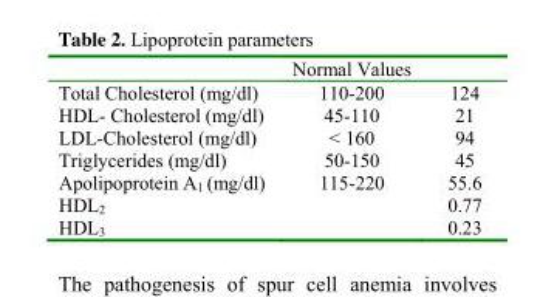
<table><thead><tr><td></td><td>Normal Values</td><td></td></tr></thead><tbody><tr><td>Total Cholesterol (mg/dl)</td><td>110-200</td><td>124</td></tr><tr><td>HDL- Cholesterol (mg/dl)</td><td>45-110</td><td>21</td></tr><tr><td>LDL-Cholesterol (mg/dl)</td><td>&lt; 160</td><td>94</td></tr><tr><td>Triglycerides (mg/dl)</td><td>50-150</td><td>45</td></tr><tr><td>Apolipoprotein A<sub>1</sub> (mg/dl)</td><td>115-220</td><td>55.6</td></tr><tr><td>HDL<sub>2</sub></td><td></td><td>0.77</td></tr><tr><td>HDL<sub>3</sub></td><td></td><td>0.23</td></tr></tbody></table>